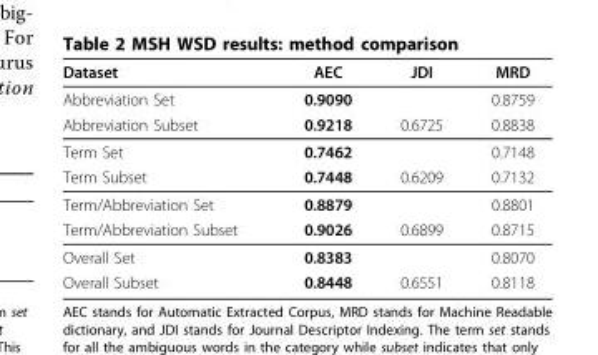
<table><thead><tr><td>Dataset</td><td>AEC</td><td>JDI</td><td>MRD</td></tr></thead><tbody><tr><td>Abbreviation Set</td><td>0.9090</td><td></td><td>0.8759</td></tr><tr><td>Abbreviation Subset</td><td>0.9218</td><td>0.6725</td><td>0.8838</td></tr><tr><td>Term Set</td><td>0.7462</td><td></td><td>0.7148</td></tr><tr><td>Term Subset</td><td>0.7448</td><td>0.6209</td><td>0.7132</td></tr><tr><td>Term/Abbreviation Set</td><td>0.8879</td><td></td><td>0.8801</td></tr><tr><td>Term/Abbreviation Subset</td><td>0.9026</td><td>0.6899</td><td>0.8715</td></tr><tr><td>Overall Set</td><td>0.8383</td><td></td><td>0.8070</td></tr><tr><td>Overall Subset</td><td>0.8448</td><td>0.6551</td><td>0.8118</td></tr></tbody></table>